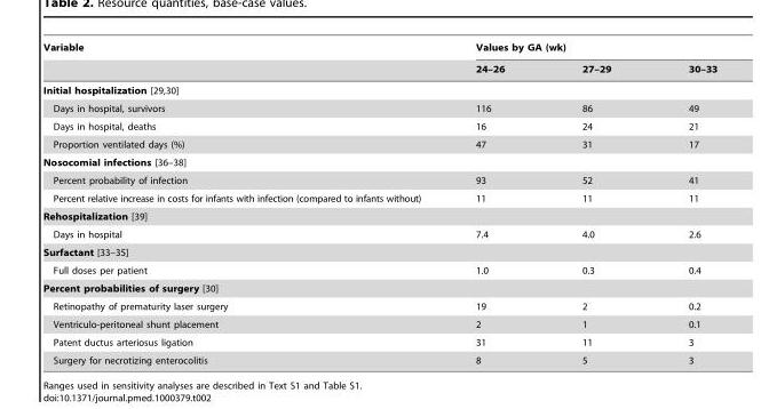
<table><thead><tr><td rowspan="2">Variable</td><td colspan="3">Values by GA (wk)</td></tr><tr><td>24–26</td><td>27–29</td><td>30–33</td></tr></thead><tbody><tr><td colspan="4">Initial hospitalization [29,30]</td></tr><tr><td>Days in hospital, survivors</td><td>116</td><td>86</td><td>49</td></tr><tr><td>Days in hospital, deaths</td><td>16</td><td>24</td><td>21</td></tr><tr><td>Proportion ventilated days (%)</td><td>47</td><td>31</td><td>17</td></tr><tr><td colspan="4">Nosocomial infections [36–38]</td></tr><tr><td>Percent probability of infection</td><td>93</td><td>52</td><td>41</td></tr><tr><td>Percent relative increase in costs for infants with infection (compared to infants without)</td><td>11</td><td>11</td><td>11</td></tr><tr><td colspan="4">Rehospitalization [39]</td></tr><tr><td>Days in hospital</td><td>7.4</td><td>4.0</td><td>2.6</td></tr><tr><td colspan="4">Surfactant [33–35]</td></tr><tr><td>Full doses per patient</td><td>1.0</td><td>0.3</td><td>0.4</td></tr><tr><td colspan="4">Percent probabilities of surgery [30]</td></tr><tr><td>Retinopathy of prematurity laser surgery</td><td>19</td><td>2</td><td>0.2</td></tr><tr><td>Ventriculo-peritoneal shunt placement</td><td>2</td><td>1</td><td>0.1</td></tr><tr><td>Patent ductus arteriosus ligation</td><td>31</td><td>11</td><td>3</td></tr><tr><td>Surgery for necrotizing enterocolitis</td><td>8</td><td>5</td><td>3</td></tr></tbody></table>